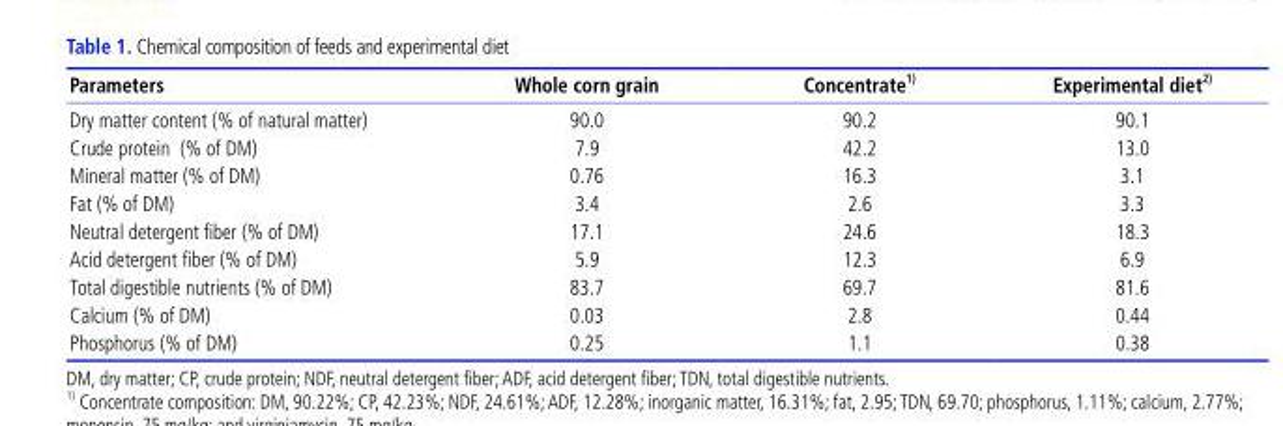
<table><thead><tr><td>Parameters</td><td>Whole corn grain</td><td>Concentrate 1)</td><td>Experimental diet 2)</td></tr></thead><tbody><tr><td>Dry matter content (% of natural matter)</td><td>90.0</td><td>90.2</td><td>90.1</td></tr><tr><td>Crude protein (% of DM)</td><td>7.9</td><td>42.2</td><td>13.0</td></tr><tr><td>Mineral matter (% of DM)</td><td>0.76</td><td>16.3</td><td>3.1</td></tr><tr><td>Fat (% of DM)</td><td>3.4</td><td>2.6</td><td>3.3</td></tr><tr><td>Neutral detergent fiber (% of DM)</td><td>17.1</td><td>24.6</td><td>18.3</td></tr><tr><td>Acid detergent fiber (% of DM)</td><td>5.9</td><td>12.3</td><td>6.9</td></tr><tr><td>Total digestible nutrients (% of DM)</td><td>83.7</td><td>69.7</td><td>81.6</td></tr><tr><td>Calcium (% of DM)</td><td>0.03</td><td>2.8</td><td>0.44</td></tr><tr><td>Phosphorus (% of DM)</td><td>0.25</td><td>1.1</td><td>0.38</td></tr></tbody></table>